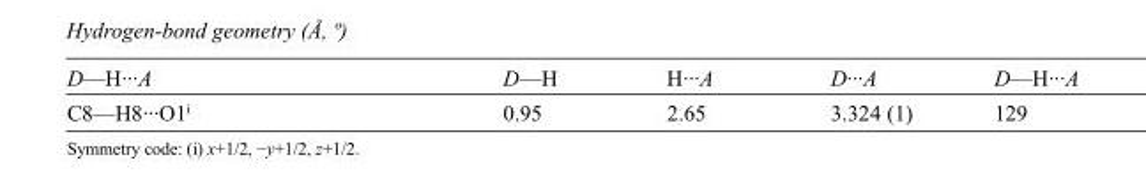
<table><tbody><tr><td>D—H···A</td><td>D—H</td><td>H···A</td><td>D···A</td><td>D—H···A</td></tr><tr><td>C8—H8···O1<sup>i</sup></td><td>0.95</td><td>2.65</td><td>3.324 (1)</td><td>129</td></tr></tbody></table>